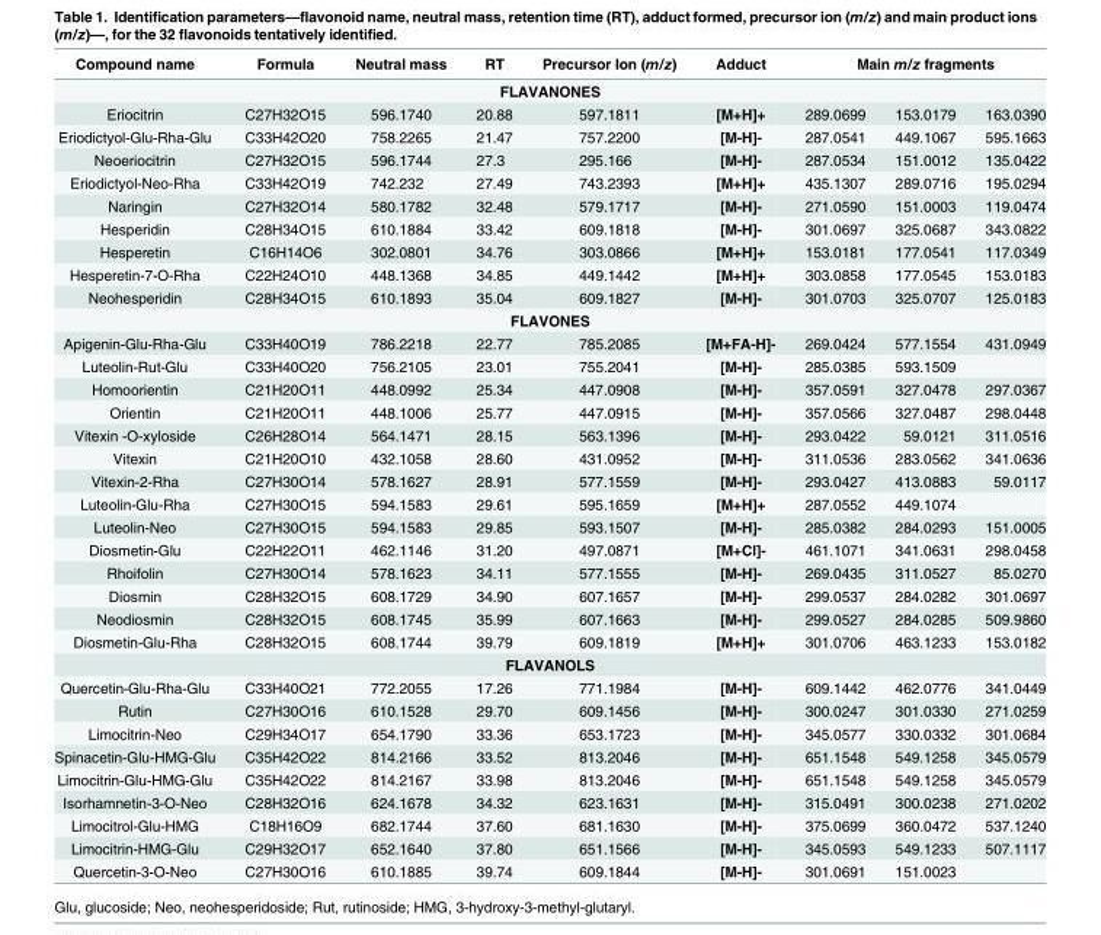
<table><thead><tr><td>Compound name</td><td>Formula</td><td>Neutral mass</td><td>RT</td><td>Precursor Ion (m/z)</td><td>Adduct</td><td colspan="3">Main m/z fragments</td></tr><tr><td colspan="9">FLAVANONES</td></tr><tr><td>Eriocitrin</td><td>C27H32O15</td><td>596.1740</td><td>20.88</td><td>597.1811</td><td>[M+H]+</td><td>289.0699</td><td>153.0179</td><td>163.0390</td></tr></thead><tbody><tr><td>Eriodictyol-Glu-Rha-Glu</td><td>C33H42O20</td><td>758.2265</td><td>21.47</td><td>757.2200</td><td>[M-H]-</td><td>287.0541</td><td>449.1067</td><td>595.1663</td></tr><tr><td>Neoeriocitrin</td><td>C27H32O15</td><td>596.1744</td><td>27.3</td><td>295.166</td><td>[M-H]-</td><td>287.0534</td><td>151.0012</td><td>135.0422</td></tr><tr><td>Eriodictyol-Neo-Rha</td><td>C33H42O19</td><td>742.232</td><td>27.49</td><td>743.2393</td><td>[M+H]+</td><td>435.1307</td><td>289.0716</td><td>195.0294</td></tr><tr><td>Naringin</td><td>C27H32O14</td><td>580.1782</td><td>32.48</td><td>579.1717</td><td>[M-H]-</td><td>271.0590</td><td>151.0003</td><td>119.0474</td></tr><tr><td>Hesperidin</td><td>C28H34O15</td><td>610.1884</td><td>33.42</td><td>609.1818</td><td>[M-H]-</td><td>301.0697</td><td>325.0687</td><td>343.0822</td></tr><tr><td>Hesperetin</td><td>C16H14O6</td><td>302.0801</td><td>34.76</td><td>303.0866</td><td>[M+H]+</td><td>153.0181</td><td>177.0541</td><td>117.0349</td></tr><tr><td>Hesperetin-7-O-Rha</td><td>C22H24O10</td><td>448.1368</td><td>34.85</td><td>449.1442</td><td>[M+H]+</td><td>303.0858</td><td>177.0545</td><td>153.0183</td></tr><tr><td>Neohesperidin</td><td>C28H34O15</td><td>610.1893</td><td>35.04</td><td>609.1827</td><td>[M-H]-</td><td>301.0703</td><td>325.0707</td><td>125.0183</td></tr><tr><td colspan="9">FLAVONES</td></tr><tr><td>Apigenin-Glu-Rha-Glu</td><td>C33H40O19</td><td>786.2218</td><td>22.77</td><td>785.2085</td><td>[M+FA-H]-</td><td>269.0424</td><td>577.1554</td><td>431.0949</td></tr><tr><td>Luteolin-Rut-Glu</td><td>C33H40O20</td><td>756.2105</td><td>23.01</td><td>755.2041</td><td>[M-H]-</td><td>285.0385</td><td>593.1509</td><td></td></tr><tr><td>Homoorientin</td><td>C21H20O11</td><td>448.0992</td><td>25.34</td><td>447.0908</td><td>[M-H]-</td><td>357.0591</td><td>327.0478</td><td>297.0367</td></tr><tr><td>Orientin</td><td>C21H20O11</td><td>448.1006</td><td>25.77</td><td>447.0915</td><td>[M-H]-</td><td>357.0566</td><td>327.0487</td><td>298.0448</td></tr><tr><td>Vitexin -O-xyloside</td><td>C26H28O14</td><td>564.1471</td><td>28.15</td><td>563.1396</td><td>[M-H]-</td><td>293.0422</td><td>59.0121</td><td>311.0516</td></tr><tr><td>Vitexin</td><td>C21H20O10</td><td>432.1058</td><td>28.60</td><td>431.0952</td><td>[M-H]-</td><td>311.0536</td><td>283.0562</td><td>341.0636</td></tr><tr><td>Vitexin-2-Rha</td><td>C27H30O14</td><td>578.1627</td><td>28.91</td><td>577.1559</td><td>[M-H]-</td><td>293.0427</td><td>413.0883</td><td>59.0117</td></tr><tr><td>Luteolin-Glu-Rha</td><td>C27H30O15</td><td>594.1583</td><td>29.61</td><td>595.1659</td><td>[M+H]+</td><td>287.0552</td><td>449.1074</td><td></td></tr><tr><td>Luteolin-Neo</td><td>C27H30O15</td><td>594.1583</td><td>29.85</td><td>593.1507</td><td>[M-H]-</td><td>285.0382</td><td>284.0293</td><td>151.0005</td></tr><tr><td>Diosmetin-Glu</td><td>C22H22O11</td><td>462.1146</td><td>31.20</td><td>497.0871</td><td>[M+Cl]-</td><td>461.1071</td><td>341.0631</td><td>298.0458</td></tr><tr><td>Rhoifolin</td><td>C27H30O14</td><td>578.1623</td><td>34.11</td><td>577.1555</td><td>[M-H]-</td><td>269.0435</td><td>311.0527</td><td>85.0270</td></tr><tr><td>Diosmin</td><td>C28H32O15</td><td>608.1729</td><td>34.90</td><td>607.1657</td><td>[M-H]-</td><td>299.0537</td><td>284.0282</td><td>301.0697</td></tr><tr><td>Neodiosmin</td><td>C28H32O15</td><td>608.1745</td><td>35.99</td><td>607.1663</td><td>[M-H]-</td><td>299.0527</td><td>284.0285</td><td>509.9860</td></tr><tr><td>Diosmetin-Glu-Rha</td><td>C28H32O15</td><td>608.1744</td><td>39.79</td><td>609.1819</td><td>[M+H]+</td><td>301.0706</td><td>463.1233</td><td>153.0182</td></tr><tr><td colspan="9">FLAVANOLS</td></tr><tr><td>Quercetin-Glu-Rha-Glu</td><td>C33H40O21</td><td>772.2055</td><td>17.26</td><td>771.1984</td><td>[M-H]-</td><td>609.1442</td><td>462.0776</td><td>341.0449</td></tr><tr><td>Rutin</td><td>C27H30O16</td><td>610.1528</td><td>29.70</td><td>609.1456</td><td>[M-H]-</td><td>300.0247</td><td>301.0330</td><td>271.0259</td></tr><tr><td>Limocitrin-Neo</td><td>C29H34O17</td><td>654.1790</td><td>33.36</td><td>653.1723</td><td>[M-H]-</td><td>345.0577</td><td>330.0332</td><td>301.0684</td></tr><tr><td>Spinacetin-Glu-HMG-Glu</td><td>C35H42O22</td><td>814.2166</td><td>33.52</td><td>813.2046</td><td>[M-H]-</td><td>651.1548</td><td>549.1258</td><td>345.0579</td></tr><tr><td>Limocitrin-Glu-HMG-Glu</td><td>C35H42O22</td><td>814.2167</td><td>33.98</td><td>813.2046</td><td>[M-H]-</td><td>651.1548</td><td>549.1258</td><td>345.0579</td></tr><tr><td>Isorhamnetin-3-O-Neo</td><td>C28H32O16</td><td>624.1678</td><td>34.32</td><td>623.1631</td><td>[M-H]-</td><td>315.0491</td><td>300.0238</td><td>271.0202</td></tr><tr><td>Limocitrol-Glu-HMG</td><td>C18H16O9</td><td>682.1744</td><td>37.60</td><td>681.1630</td><td>[M-H]-</td><td>375.0699</td><td>360.0472</td><td>537.1240</td></tr><tr><td>Limocitrin-HMG-Glu</td><td>C29H32O17</td><td>652.1640</td><td>37.80</td><td>651.1566</td><td>[M-H]-</td><td>345.0593</td><td>549.1233</td><td>507.1117</td></tr><tr><td>Quercetin-3-O-Neo</td><td>C27H30O16</td><td>610.1885</td><td>39.74</td><td>609.1844</td><td>[M-H]-</td><td>301.0691</td><td>151.0023</td><td></td></tr></tbody></table>